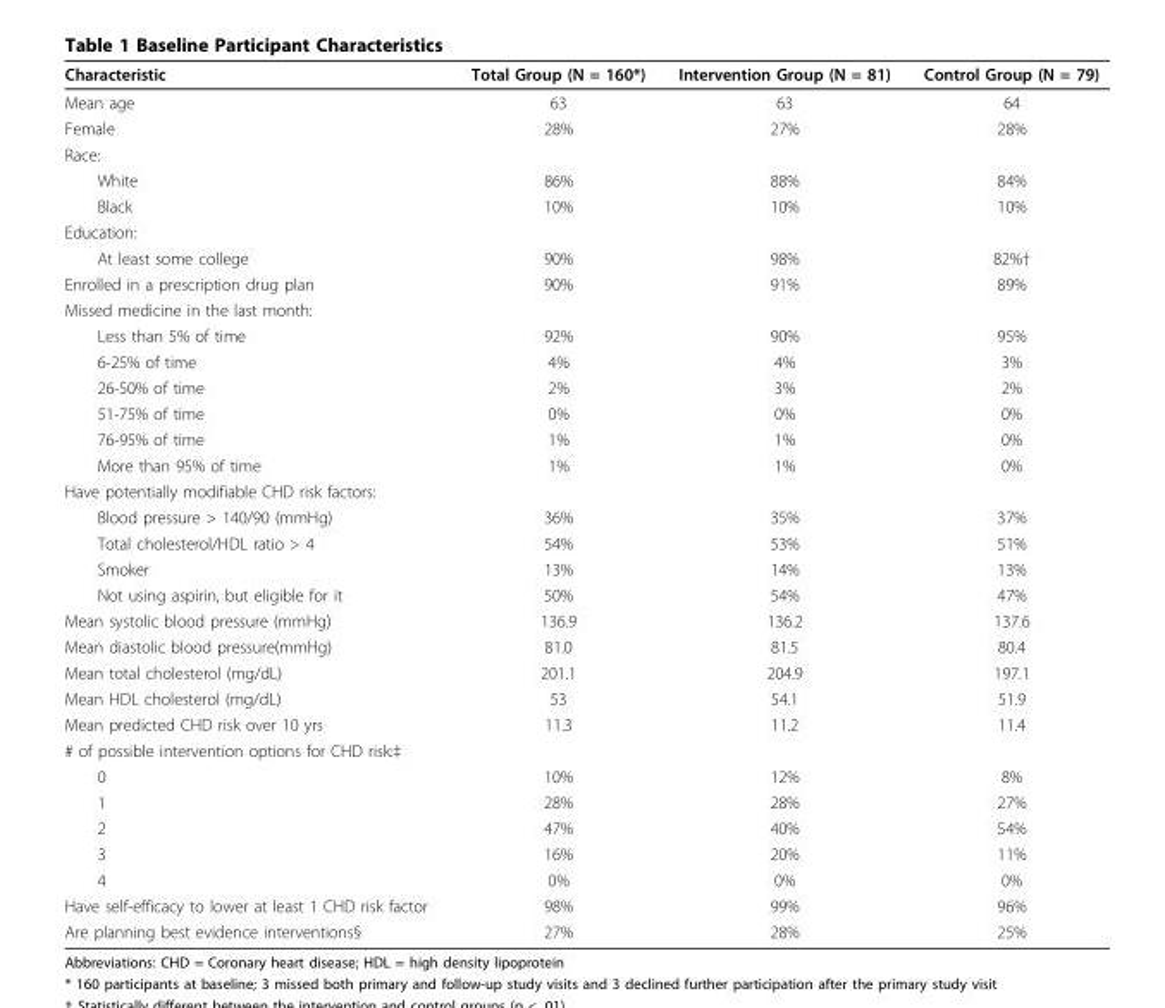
<table><thead><tr><td>Characteristic</td><td>Total Group (N = 160*)</td><td>Intervention Group (N = 81)</td><td>Control Group (N = 79)</td></tr></thead><tbody><tr><td>Mean age</td><td>63</td><td>63</td><td>64</td></tr><tr><td>Female</td><td>28%</td><td>27%</td><td>28%</td></tr><tr><td colspan="4">Race:</td></tr><tr><td>White</td><td>86%</td><td>88%</td><td>84%</td></tr><tr><td>Black</td><td>10%</td><td>10%</td><td>10%</td></tr><tr><td colspan="4">Education:</td></tr><tr><td>At least some college</td><td>90%</td><td>98%</td><td>82%†</td></tr><tr><td>Enrolled in a prescription drug plan</td><td>90%</td><td>91%</td><td>89%</td></tr><tr><td colspan="4">Missed medicine in the last month:</td></tr><tr><td>Less than 5% of time</td><td>92%</td><td>90%</td><td>95%</td></tr><tr><td>6-25% of time</td><td>4%</td><td>4%</td><td>3%</td></tr><tr><td>26-50% of time</td><td>2%</td><td>3%</td><td>2%</td></tr><tr><td>51-75% of time</td><td>0%</td><td>0%</td><td>0%</td></tr><tr><td>76-95% of time</td><td>1%</td><td>1%</td><td>0%</td></tr><tr><td>More than 95% of time</td><td>1%</td><td>1%</td><td>0%</td></tr><tr><td colspan="4">Have potentially modifiable CHD risk factors:</td></tr><tr><td>Blood pressure &gt; 140/90 (mmHg)</td><td>36%</td><td>35%</td><td>37%</td></tr><tr><td>Total cholesterol/HDL ratio &gt; 4</td><td>54%</td><td>53%</td><td>51%</td></tr><tr><td>Smoker</td><td>13%</td><td>14%</td><td>13%</td></tr><tr><td>Not using aspirin, but eligible for it</td><td>50%</td><td>54%</td><td>47%</td></tr><tr><td>Mean systolic blood pressure (mmHg)</td><td>136.9</td><td>136.2</td><td>137.6</td></tr><tr><td>Mean diastolic blood pressure(mmHg)</td><td>81.0</td><td>81.5</td><td>80.4</td></tr><tr><td>Mean total cholesterol (mg/dL)</td><td>201.1</td><td>204.9</td><td>197.1</td></tr><tr><td>Mean HDL cholesterol (mg/dL)</td><td>53</td><td>54.1</td><td>51.9</td></tr><tr><td>Mean predicted CHD risk over 10 yrs</td><td>11.3</td><td>11.2</td><td>11.4</td></tr><tr><td colspan="4"># of possible intervention options for CHD risk:‡</td></tr><tr><td>0</td><td>10%</td><td>12%</td><td>8%</td></tr><tr><td>1</td><td>28%</td><td>28%</td><td>27%</td></tr><tr><td>2</td><td>47%</td><td>40%</td><td>54%</td></tr><tr><td>3</td><td>16%</td><td>20%</td><td>11%</td></tr><tr><td>4</td><td>0%</td><td>0%</td><td>0%</td></tr><tr><td>Have self-efficacy to lower at least 1 CHD risk factor</td><td>98%</td><td>99%</td><td>96%</td></tr><tr><td>Are planning best evidence interventions§</td><td>27%</td><td>28%</td><td>25%</td></tr></tbody></table>